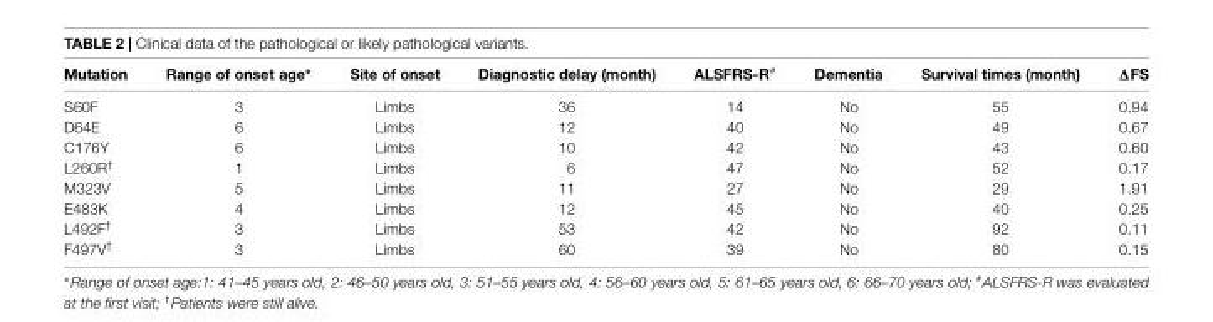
<table><thead><tr><td>Mutation</td><td>Range of onset age∗</td><td>Site of onset</td><td>Diagnostic delay (month)</td><td>ALSFRS-R<sup>#</sup></td><td>Dementia</td><td>Survival times (month)</td><td>∆FS</td></tr></thead><tbody><tr><td>S60F</td><td>3</td><td>Limbs</td><td>36</td><td>14</td><td>No</td><td>55</td><td>0.94</td></tr><tr><td>D64E</td><td>6</td><td>Limbs</td><td>12</td><td>40</td><td>No</td><td>49</td><td>0.67</td></tr><tr><td>C176Y</td><td>6</td><td>Limbs</td><td>10</td><td>42</td><td>No</td><td>43</td><td>0.60</td></tr><tr><td>L260R<sup>†</sup></td><td>1</td><td>Limbs</td><td>6</td><td>47</td><td>No</td><td>52</td><td>0.17</td></tr><tr><td>M323V</td><td>5</td><td>Limbs</td><td>11</td><td>27</td><td>No</td><td>29</td><td>1.91</td></tr><tr><td>E483K</td><td>4</td><td>Limbs</td><td>12</td><td>45</td><td>No</td><td>40</td><td>0.25</td></tr><tr><td>L492F<sup>†</sup></td><td>3</td><td>Limbs</td><td>53</td><td>42</td><td>No</td><td>92</td><td>0.11</td></tr><tr><td>F497V<sup>†</sup></td><td>3</td><td>Limbs</td><td>60</td><td>39</td><td>No</td><td>80</td><td>0.15</td></tr></tbody></table>